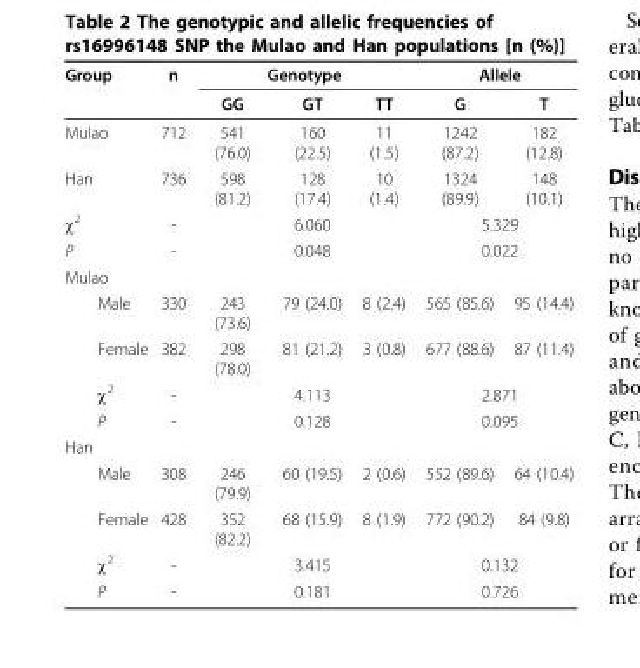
<table><thead><tr><td rowspan="2">Group</td><td rowspan="2">n</td><td colspan="3">Genotype</td><td colspan="2">Allele</td></tr><tr><td>GG</td><td>GT</td><td>TT</td><td>G</td><td>T</td></tr></thead><tbody><tr><td>Mulao</td><td>712</td><td>541 (76.0)</td><td>160 (22.5)</td><td>11 (1.5)</td><td>1242 (87.2)</td><td>182 (12.8)</td></tr><tr><td>Han</td><td>736</td><td>598 (81.2)</td><td>128 (17.4)</td><td>10 (1.4)</td><td>1324 (89.9)</td><td>148 (10.1)</td></tr><tr><td>χ<sup>2</sup></td><td>-</td><td></td><td>6.060</td><td></td><td colspan="2">5.329</td></tr><tr><td>P</td><td>-</td><td></td><td>0.048</td><td></td><td colspan="2">0.022</td></tr><tr><td colspan="7">Mulao</td></tr><tr><td>Male</td><td>330</td><td>243 (73.6)</td><td>79 (24.0)</td><td>8 (2.4)</td><td>565 (85.6)</td><td>95 (14.4)</td></tr><tr><td>Female</td><td>382</td><td>298 (78.0)</td><td>81 (21.2)</td><td>3 (0.8)</td><td>677 (88.6)</td><td>87 (11.4)</td></tr><tr><td>χ<sup>2</sup></td><td>-</td><td></td><td>4.113</td><td></td><td colspan="2">2.871</td></tr><tr><td>P</td><td>-</td><td></td><td>0.128</td><td></td><td colspan="2">0.095</td></tr><tr><td colspan="7">Han</td></tr><tr><td>Male</td><td>308</td><td>246 (79.9)</td><td>60 (19.5)</td><td>2 (0.6)</td><td>552 (89.6)</td><td>64 (10.4)</td></tr><tr><td>Female</td><td>428</td><td>352 (82.2)</td><td>68 (15.9)</td><td>8 (1.9)</td><td>772 (90.2)</td><td>84 (9.8)</td></tr><tr><td>χ<sup>2</sup></td><td>-</td><td></td><td>3.415</td><td></td><td colspan="2">0.132</td></tr><tr><td>P</td><td>-</td><td></td><td>0.181</td><td></td><td colspan="2">0.726</td></tr></tbody></table>